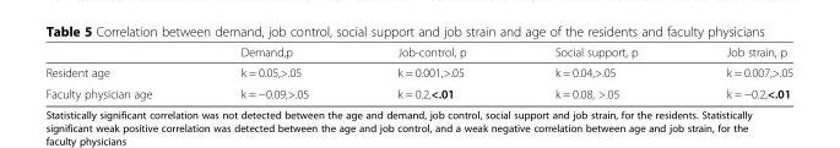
<table><thead><tr><td></td><td>Demand,p</td><td>Job-control, p</td><td>Social support, p</td><td>Job strain, p</td></tr></thead><tbody><tr><td>Resident age</td><td>k = 0.05,&gt;.05</td><td>k = 0.001,&gt;.05</td><td>k = 0.04,&gt;.05</td><td>k = 0.007,&gt;.05</td></tr><tr><td>Faculty physician age</td><td>k = −0.09,&gt;.05</td><td>k = 0.2,&lt;.01</td><td>k = 0.08, &gt;.05</td><td>k = −0.2,&lt;.01</td></tr></tbody></table>